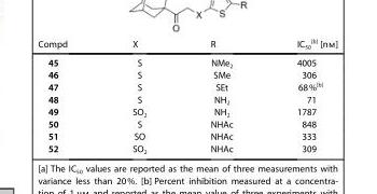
<table><thead><tr><td>Compd</td><td>X</td><td>R</td><td>IC<sub>50</sub> [b] [nm]</td></tr></thead><tbody><tr><td>45</td><td>S</td><td>NMe<sub>2</sub></td><td>4005</td></tr><tr><td>46</td><td>S</td><td>SMe</td><td>306</td></tr><tr><td>47</td><td>S</td><td>SEt</td><td>68%[b]</td></tr><tr><td>48</td><td>S</td><td>NH<sub>2</sub></td><td>71</td></tr><tr><td>49</td><td>SO<sub>2</sub></td><td>NH<sub>2</sub></td><td>1787</td></tr><tr><td>50</td><td>S</td><td>NHAc</td><td>848</td></tr><tr><td>51</td><td>SO</td><td>NHAc</td><td>333</td></tr><tr><td>52</td><td>SO<sub>2</sub></td><td>NHAc</td><td>309</td></tr></tbody></table>